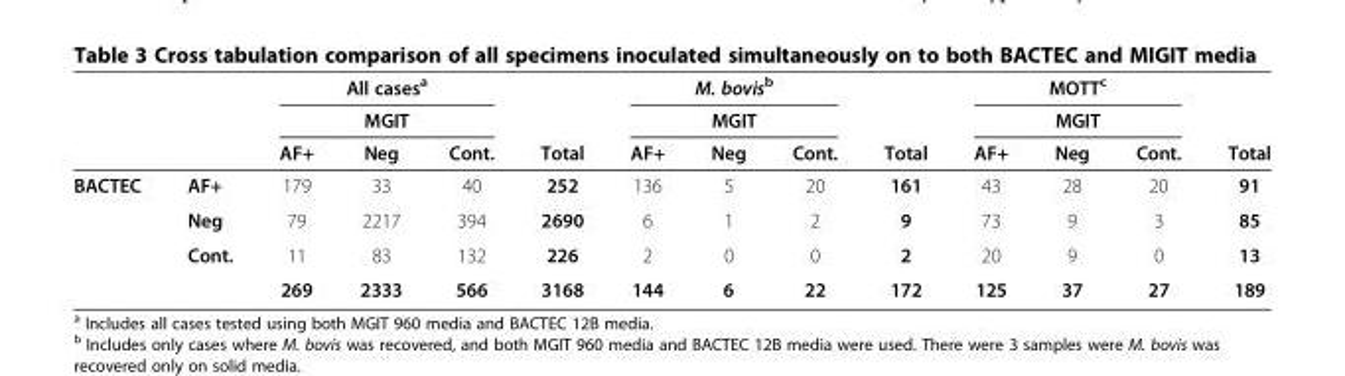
<table><thead><tr><td rowspan="3"></td><td rowspan="3"></td><td rowspan="2" colspan="3">All cases<sup>a</sup> MGIT</td><td rowspan="3">Total</td><td rowspan="2" colspan="3">M. bovis<sup>b</sup> MGIT</td><td rowspan="3">Total</td><td rowspan="2" colspan="3">MOTT<sup>c</sup> MGIT</td><td rowspan="3">Total</td></tr><tr></tr><tr><td>AF+</td><td>Neg</td><td>Cont.</td><td>AF+</td><td>Neg</td><td>Cont.</td><td>AF+</td><td>Neg</td><td>Cont.</td></tr></thead><tbody><tr><td rowspan="4">BACTEC</td><td>AF+</td><td>179</td><td>33</td><td>40</td><td>252</td><td>136</td><td>5</td><td>20</td><td>161</td><td>43</td><td>28</td><td>20</td><td>91</td></tr><tr><td>Neg</td><td>79</td><td>2217</td><td>394</td><td>2690</td><td>6</td><td>1</td><td>2</td><td>9</td><td>73</td><td>9</td><td>3</td><td>85</td></tr><tr><td>Cont.</td><td>11</td><td>83</td><td>132</td><td>226</td><td>2</td><td>0</td><td>0</td><td>2</td><td>20</td><td>9</td><td>0</td><td>13</td></tr><tr><td></td><td>269</td><td>2333</td><td>566</td><td>3168</td><td>144</td><td>6</td><td>22</td><td>172</td><td>125</td><td>37</td><td>27</td><td>189</td></tr></tbody></table>